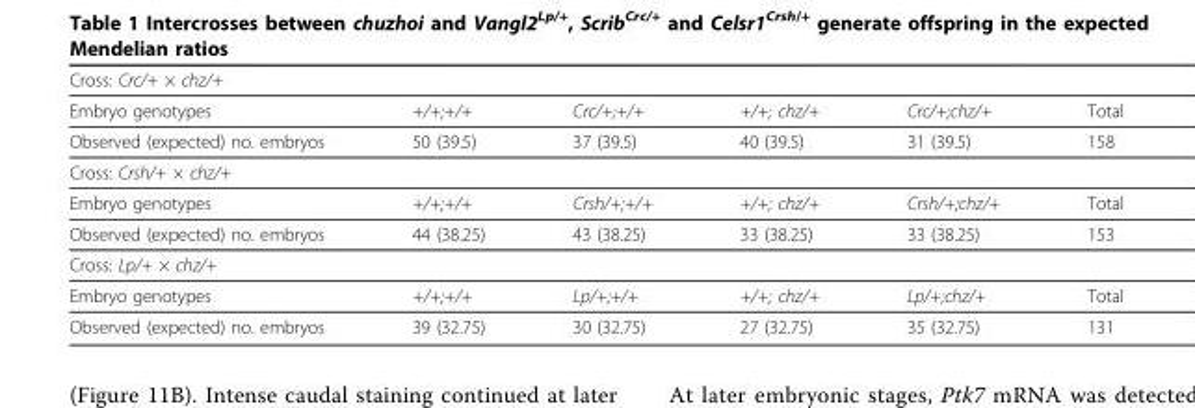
<table><thead><tr><td>Cross: Crc/+ × chz/+</td><td></td><td></td><td></td><td></td><td></td></tr></thead><tbody><tr><td>Embryo genotypes</td><td>+/+;+/+</td><td>Crc/+;+/+</td><td>+/+; chz/+</td><td>Crc/+;chz/+</td><td>Total</td></tr><tr><td>Observed (expected) no. embryos</td><td>50 (39.5)</td><td>37 (39.5)</td><td>40 (39.5)</td><td>31 (39.5)</td><td>158</td></tr><tr><td colspan="6">Cross: Crsh/+ × chz/+</td></tr><tr><td>Embryo genotypes</td><td>+/+;+/+</td><td>Crsh/+;+/+</td><td>+/+; chz/+</td><td>Crsh/+;chz/+</td><td>Total</td></tr><tr><td>Observed (expected) no. embryos</td><td>44 (38.25)</td><td>43 (38.25)</td><td>33 (38.25)</td><td>33 (38.25)</td><td>153</td></tr><tr><td colspan="6">Cross: Lp/+ × chz/+</td></tr><tr><td>Embryo genotypes</td><td>+/+;+/+</td><td>Lp/+;+/+</td><td>+/+; chz/+</td><td>Lp/+;chz/+</td><td>Total</td></tr><tr><td>Observed (expected) no. embryos</td><td>39 (32.75)</td><td>30 (32.75)</td><td>27 (32.75)</td><td>35 (32.75)</td><td>131</td></tr></tbody></table>